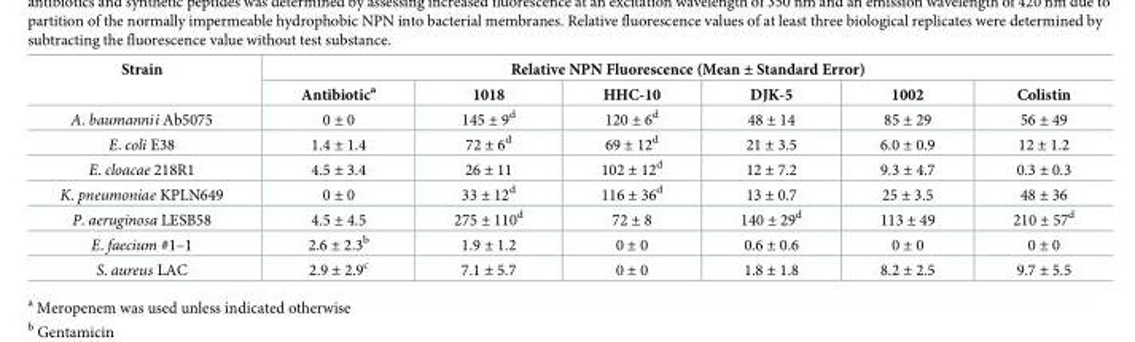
<table><thead><tr><td rowspan="2">Strain</td><td colspan="6">Relative NPN Fluorescence (Mean ± Standard Error)</td></tr><tr><td>Antibiotic<sup>a</sup></td><td>1018</td><td>HHC-10</td><td>DJK-5</td><td>1002</td><td>Colistin</td></tr></thead><tbody><tr><td>A. baumannii Ab5075</td><td>0 ± 0</td><td>145 ± 9<sup>d</sup></td><td>120 ± 6<sup>d</sup></td><td>48 ± 14</td><td>85 ± 29</td><td>56 ± 49</td></tr><tr><td>E. coli E38</td><td>1.4 ± 1.4</td><td>72 ± 6<sup>d</sup></td><td>69 ± 12<sup>d</sup></td><td>21 ± 3.5</td><td>6.0 ± 0.9</td><td>12 ± 1.2</td></tr><tr><td>E. cloacae 218R1</td><td>4.5 ± 3.4</td><td>26 ± 11</td><td>102 ± 12<sup>d</sup></td><td>12 ± 7.2</td><td>9.3 ± 4.7</td><td>0.3 ± 0.3</td></tr><tr><td>K. pneumoniae KPLN649</td><td>0 ± 0</td><td>33 ± 12<sup>d</sup></td><td>116 ± 36<sup>d</sup></td><td>13 ± 0.7</td><td>25 ± 3.5</td><td>48 ± 36</td></tr><tr><td>P. aeruginosa LESB58</td><td>4.5 ± 4.5</td><td>275 ± 110<sup>d</sup></td><td>72 ± 8</td><td>140 ± 29<sup>d</sup></td><td>113 ± 49</td><td>210 ± 57<sup>d</sup></td></tr><tr><td>E. faecium #1–1</td><td>2.6 ± 2.3<sup>b</sup></td><td>1.9 ± 1.2</td><td>0 ± 0</td><td>0.6 ± 0.6</td><td>0 ± 0</td><td>0 ± 0</td></tr><tr><td>S. aureus LAC</td><td>2.9 ± 2.9<sup>c</sup></td><td>7.1 ± 5.7</td><td>0 ± 0</td><td>1.8 ± 1.8</td><td>8.2 ± 2.5</td><td>9.7 ± 5.5</td></tr></tbody></table>